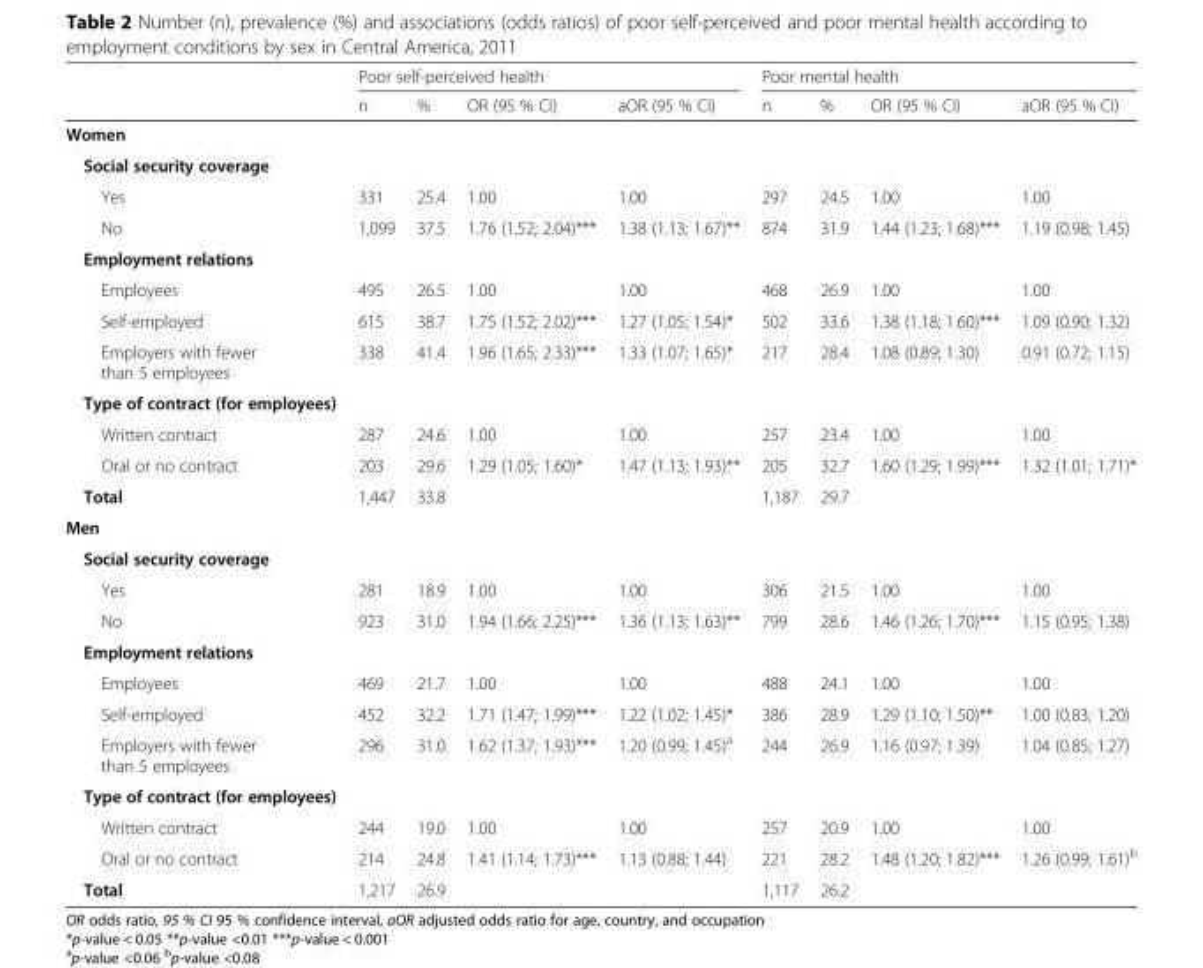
<table><thead><tr><td rowspan="2"></td><td colspan="4">Poor self-perceived health</td><td colspan="4">Poor mental health</td></tr><tr><td>n</td><td>%</td><td>OR (95 % CI)</td><td>aOR (95 % CI)</td><td>n</td><td>%</td><td>OR (95 % CI)</td><td>aOR (95 % CI)</td></tr></thead><tbody><tr><td colspan="9">Women</td></tr><tr><td colspan="9">Social security coverage</td></tr><tr><td>Yes</td><td>331</td><td>25.4</td><td>1.00</td><td>1.00</td><td>297</td><td>24.5</td><td>1.00</td><td>1.00</td></tr><tr><td>No</td><td>1,099</td><td>37.5</td><td>1.76 (1.52; 2.04)***</td><td>1.38 (1.13; 1.67)**</td><td>874</td><td>31.9</td><td>1.44 (1.23; 1.68)***</td><td>1.19 (0.98; 1.45)</td></tr><tr><td colspan="9">Employment relations</td></tr><tr><td>Employees</td><td>495</td><td>26.5</td><td>1.00</td><td>1.00</td><td>468</td><td>26.9</td><td>1.00</td><td>1.00</td></tr><tr><td>Self-employed</td><td>615</td><td>38.7</td><td>1.75 (1.52; 2.02)***</td><td>1.27 (1.05; 1.54)*</td><td>502</td><td>33.6</td><td>1.38 (1.18; 1.60)***</td><td>1.09 (0.90; 1.32)</td></tr><tr><td>Employers with fewer than 5 employees</td><td>338</td><td>41.4</td><td>1.96 (1.65; 2.33)***</td><td>1.33 (1.07; 1.65)*</td><td>217</td><td>28.4</td><td>1.08 (0.89; 1.30)</td><td>0.91 (0.72; 1.15)</td></tr><tr><td colspan="9">Type of contract (for employees)</td></tr><tr><td>Written contract</td><td>287</td><td>24.6</td><td>1.00</td><td>1.00</td><td>257</td><td>23.4</td><td>1.00</td><td>1.00</td></tr><tr><td>Oral or no contract</td><td>203</td><td>29.6</td><td>1.29 (1.05; 1.60)*</td><td>1.47 (1.13; 1.93)**</td><td>205</td><td>32.7</td><td>1.60 (1.29; 1.99)***</td><td>1.32 (1.01; 1.71)*</td></tr><tr><td>Total</td><td>1,447</td><td>33.8</td><td></td><td></td><td>1,187</td><td>29.7</td><td></td><td></td></tr><tr><td colspan="9">Men</td></tr><tr><td colspan="9">Social security coverage</td></tr><tr><td>Yes</td><td>281</td><td>18.9</td><td>1.00</td><td>1.00</td><td>306</td><td>21.5</td><td>1.00</td><td>1.00</td></tr><tr><td>No</td><td>923</td><td>31.0</td><td>1.94 (1.66; 2.25)***</td><td>1.36 (1.13; 1.63)**</td><td>799</td><td>28.6</td><td>1.46 (1.26; 1.70)***</td><td>1.15 (0.95; 1.38)</td></tr><tr><td colspan="9">Employment relations</td></tr><tr><td>Employees</td><td>469</td><td>21.7</td><td>1.00</td><td>1.00</td><td>488</td><td>24.1</td><td>1.00</td><td>1.00</td></tr><tr><td>Self-employed</td><td>452</td><td>32.2</td><td>1.71 (1.47; 1.99)***</td><td>1.22 (1.02; 1.45)*</td><td>386</td><td>28.9</td><td>1.29 (1.10; 1.50)**</td><td>1.00 (0.83; 1.20)</td></tr><tr><td>Employers with fewer than 5 employees</td><td>296</td><td>31.0</td><td>1.62 (1.37; 1.93)***</td><td>1.20 (0.99; 1.45)<sup>a</sup></td><td>244</td><td>26.9</td><td>1.16 (0.97; 1.39)</td><td>1.04 (0.85; 1.27)</td></tr><tr><td colspan="9">Type of contract (for employees)</td></tr><tr><td>Written contract</td><td>244</td><td>19.0</td><td>1.00</td><td>1.00</td><td>257</td><td>20.9</td><td>1.00</td><td>1.00</td></tr><tr><td>Oral or no contract</td><td>214</td><td>24.8</td><td>1.41 (1.14; 1.73)***</td><td>1.13 (0.88; 1.44)</td><td>221</td><td>28.2</td><td>1.48 (1.20; 1.82)***</td><td>1.26 (0.99; 1.61)<sup>b</sup></td></tr><tr><td>Total</td><td>1,217</td><td>26.9</td><td></td><td></td><td>1,117</td><td>26.2</td><td></td><td></td></tr></tbody></table>